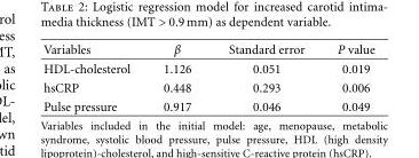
<table><thead><tr><td>Variables</td><td>β</td><td>Standard error</td><td>P value</td></tr></thead><tbody><tr><td>HDL-cholesterol</td><td>1.126</td><td>0.051</td><td>0.019</td></tr><tr><td>hsCRP</td><td>0.448</td><td>0.293</td><td>0.006</td></tr><tr><td>Pulse pressure</td><td>0.917</td><td>0.046</td><td>0.049</td></tr></tbody></table>